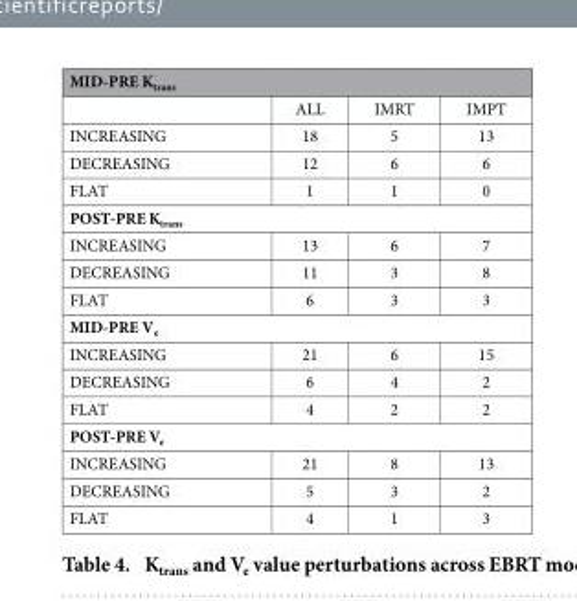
<table><thead><tr><td colspan="4">MID-PRE Ktrans</td></tr><tr><td></td><td>ALL</td><td>IMRT</td><td>IMPT</td></tr></thead><tbody><tr><td>INCREASING</td><td>18</td><td>5</td><td>13</td></tr><tr><td>DECREASING</td><td>12</td><td>6</td><td>6</td></tr><tr><td>FLAT</td><td>1</td><td>1</td><td>0</td></tr><tr><td colspan="4">POST-PRE Ktrans</td></tr><tr><td>INCREASING</td><td>13</td><td>6</td><td>7</td></tr><tr><td>DECREASING</td><td>11</td><td>3</td><td>8</td></tr><tr><td>FLAT</td><td>6</td><td>3</td><td>3</td></tr><tr><td colspan="4">MID-PRE V<sub>e</sub></td></tr><tr><td>INCREASING</td><td>21</td><td>6</td><td>15</td></tr><tr><td>DECREASING</td><td>6</td><td>4</td><td>2</td></tr><tr><td>FLAT</td><td>4</td><td>2</td><td>2</td></tr><tr><td colspan="4">POST-PRE Ve</td></tr><tr><td>INCREASING</td><td>21</td><td>8</td><td>13</td></tr><tr><td>DECREASING</td><td>5</td><td>3</td><td>2</td></tr><tr><td>FLAT</td><td>4</td><td>1</td><td>3</td></tr></tbody></table>